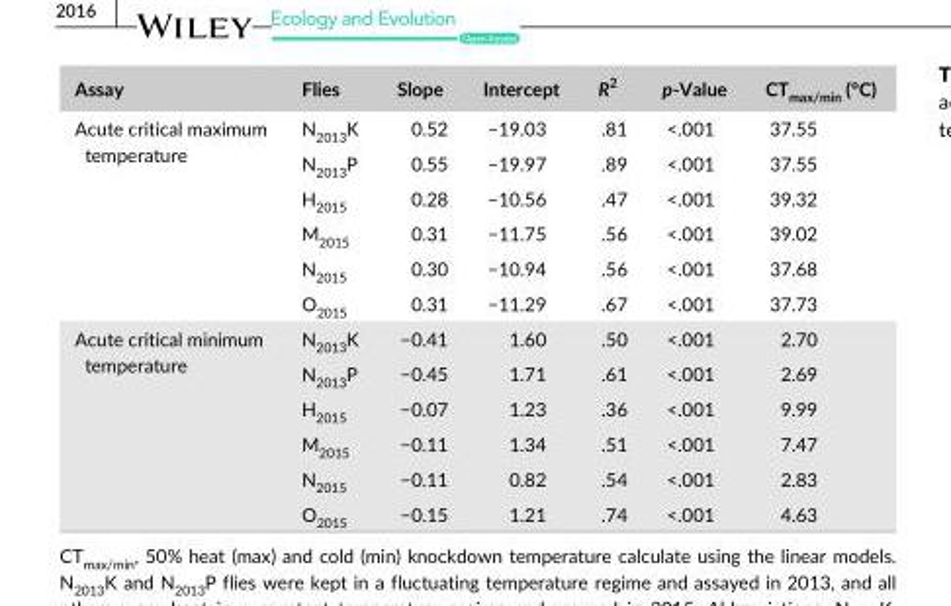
<table><thead><tr><td>Assay</td><td>Flies</td><td>Slope</td><td>Intercept</td><td>R<sup>2</sup></td><td>p- Value</td><td>CT<sub>max/min</sub> (°C)</td></tr></thead><tbody><tr><td rowspan="6">Acute critical maximum temperature</td><td>N<sub>2013</sub>K</td><td>0.52</td><td>−19.03</td><td>.81</td><td>&lt;.001</td><td>37.55</td></tr><tr><td>N<sub>2013</sub>P</td><td>0.55</td><td>−19.97</td><td>.89</td><td>&lt;.001</td><td>37.55</td></tr><tr><td>H<sub>2015</sub></td><td>0.28</td><td>−10.56</td><td>.47</td><td>&lt;.001</td><td>39.32</td></tr><tr><td>M<sub>2015</sub></td><td>0.31</td><td>−11.75</td><td>.56</td><td>&lt;.001</td><td>39.02</td></tr><tr><td>N<sub>2015</sub></td><td>0.30</td><td>−10.94</td><td>.56</td><td>&lt;.001</td><td>37.68</td></tr><tr><td>O<sub>2015</sub></td><td>0.31</td><td>−11.29</td><td>.67</td><td>&lt;.001</td><td>37.73</td></tr><tr><td rowspan="6">Acute critical minimum temperature</td><td>N<sub>2013</sub>K</td><td>−0.41</td><td>1.60</td><td>.50</td><td>&lt;.001</td><td>2.70</td></tr><tr><td>N<sub>2013</sub>P</td><td>−0.45</td><td>1.71</td><td>.61</td><td>&lt;.001</td><td>2.69</td></tr><tr><td>H<sub>2015</sub></td><td>−0.07</td><td>1.23</td><td>.36</td><td>&lt;.001</td><td>9.99</td></tr><tr><td>M<sub>2015</sub></td><td>−0.11</td><td>1.34</td><td>.51</td><td>&lt;.001</td><td>7.47</td></tr><tr><td>N<sub>2015</sub></td><td>−0.11</td><td>0.82</td><td>.54</td><td>&lt;.001</td><td>2.83</td></tr><tr><td>O<sub>2015</sub></td><td>−0.15</td><td>1.21</td><td>.74</td><td>&lt;.001</td><td>4.63</td></tr></tbody></table>